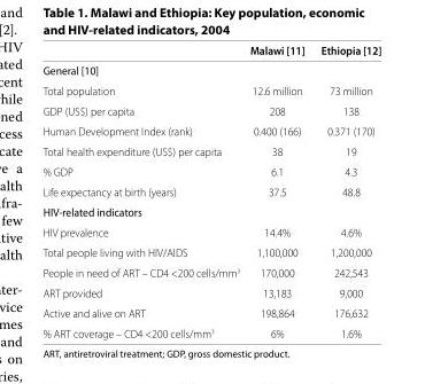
<table><thead><tr><td></td><td>Malawi [11]</td><td>Ethiopia [12]</td></tr></thead><tbody><tr><td colspan="3">General [10]</td></tr><tr><td>Total population</td><td>12.6 million</td><td>73 million</td></tr><tr><td>GDP (US$) per capita</td><td>208</td><td>138</td></tr><tr><td>Human Development Index (rank)</td><td>0.400 (166)</td><td>0.371 (170)</td></tr><tr><td>Total health expenditure (US$) per capita</td><td>38</td><td>19</td></tr><tr><td>% GDP</td><td>6.1</td><td>4.3</td></tr><tr><td>Life expectancy at birth (years)</td><td>37.5</td><td>48.8</td></tr><tr><td colspan="3">HIV-related indicators</td></tr><tr><td>HIV prevalence</td><td>14.4%</td><td>4.6%</td></tr><tr><td>Total people living with HIV/AIDS</td><td>1,100,000</td><td>1,200,000</td></tr><tr><td>People in need of ART – CD4 &lt;200 cells/mm<sup>3</sup></td><td>170,000</td><td>242,543</td></tr><tr><td>ART provided</td><td>13,183</td><td>9,000</td></tr><tr><td>Active and alive on ART</td><td>198,864</td><td>176,632</td></tr><tr><td>% ART coverage – CD4 &lt;200 cells/mm<sup>3</sup></td><td>6%</td><td>1.6%</td></tr></tbody></table>